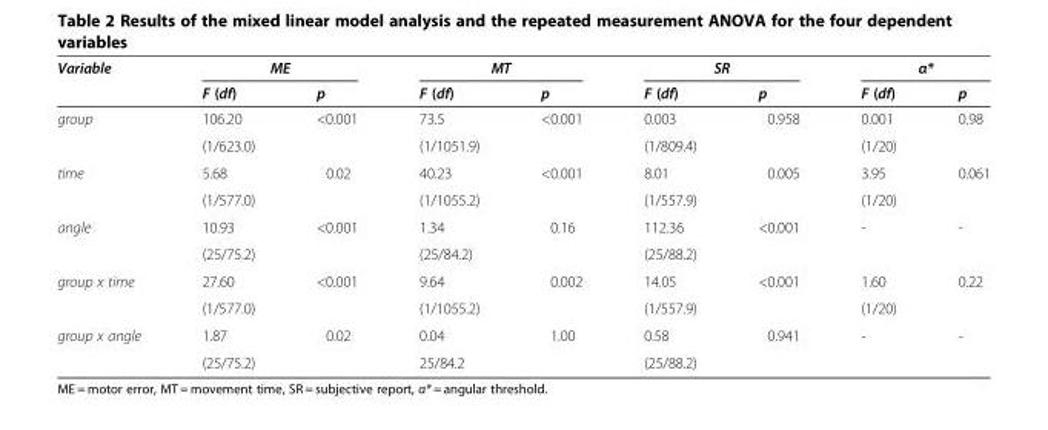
<table><thead><tr><td rowspan="2">Variable</td><td colspan="2">ME</td><td colspan="2">MT</td><td colspan="2">SR</td><td colspan="2">α*</td></tr><tr><td>F (df)</td><td>p</td><td>F (df)</td><td>p</td><td>F (df)</td><td>p</td><td>F (df)</td><td>p</td></tr></thead><tbody><tr><td rowspan="2">group</td><td>106.20</td><td>&lt;0.001</td><td>73.5</td><td>&lt;0.001</td><td>0.003</td><td>0.958</td><td>0.001</td><td>0.98</td></tr><tr><td>(1/623.0)</td><td></td><td>(1/1051.9)</td><td></td><td>(1/809.4)</td><td></td><td>(1/20)</td><td></td></tr><tr><td rowspan="2">time</td><td>5.68</td><td>0.02</td><td>40.23</td><td>&lt;0.001</td><td>8.01</td><td>0.005</td><td>3.95</td><td>0.061</td></tr><tr><td>(1/577.0)</td><td></td><td>(1/1055.2)</td><td></td><td>(1/557.9)</td><td></td><td>(1/20)</td><td></td></tr><tr><td rowspan="2">angle</td><td>10.93</td><td>&lt;0.001</td><td>1.34</td><td>0.16</td><td>112.36</td><td>&lt;0.001</td><td>-</td><td>-</td></tr><tr><td>(25/75.2)</td><td></td><td>(25/84.2)</td><td></td><td>(25/88.2)</td><td></td><td></td><td></td></tr><tr><td rowspan="2">group x time</td><td>27.60</td><td>&lt;0.001</td><td>9.64</td><td>0.002</td><td>14.05</td><td>&lt;0.001</td><td>1.60</td><td>0.22</td></tr><tr><td>(1/577.0)</td><td></td><td>(1/1055.2)</td><td></td><td>(1/557.9)</td><td></td><td>(1/20)</td><td></td></tr><tr><td rowspan="2">group x angle</td><td>1.87</td><td>0.02</td><td>0.04</td><td>1.00</td><td>0.58</td><td>0.941</td><td>-</td><td>-</td></tr><tr><td>(25/75.2)</td><td></td><td>25/84.2</td><td></td><td>(25/88.2)</td><td></td><td></td><td></td></tr></tbody></table>